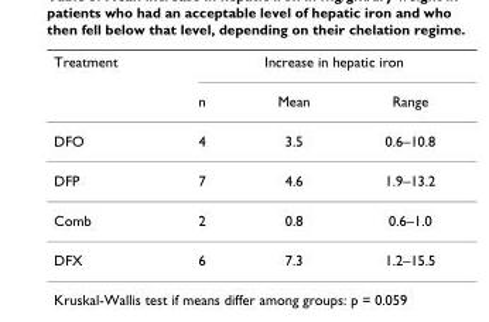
<table><thead><tr><td rowspan="2">Treatment</td><td colspan="3">Increase in hepatic iron</td></tr><tr><td>n</td><td>Mean</td><td>Range</td></tr></thead><tbody><tr><td>DFO</td><td>4</td><td>3.5</td><td>0.6–10.8</td></tr><tr><td>DFP</td><td>7</td><td>4.6</td><td>1.9–13.2</td></tr><tr><td>Comb</td><td>2</td><td>0.8</td><td>0.6–1.0</td></tr><tr><td>DFX</td><td>6</td><td>7.3</td><td>1.2–15.5</td></tr></tbody></table>